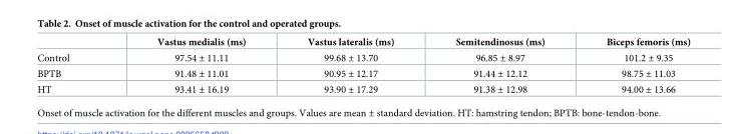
<table><thead><tr><td></td><td>Vastus medialis (ms)</td><td>Vastus lateralis (ms)</td><td>Semitendinosus (ms)</td><td>Biceps femoris (ms)</td></tr></thead><tbody><tr><td>Control</td><td>97.54 ± 11.11</td><td>99.68 ± 13.70</td><td>96.85 ± 8.97</td><td>101.2 ± 9.35</td></tr><tr><td>BPTB</td><td>91.48 ± 11.01</td><td>90.95 ± 12.17</td><td>91.44 ± 12.12</td><td>98.75 ± 11.03</td></tr><tr><td>HT</td><td>93.41 ± 16.19</td><td>93.90 ± 17.29</td><td>91.38 ± 12.98</td><td>94.00 ± 13.66</td></tr></tbody></table>